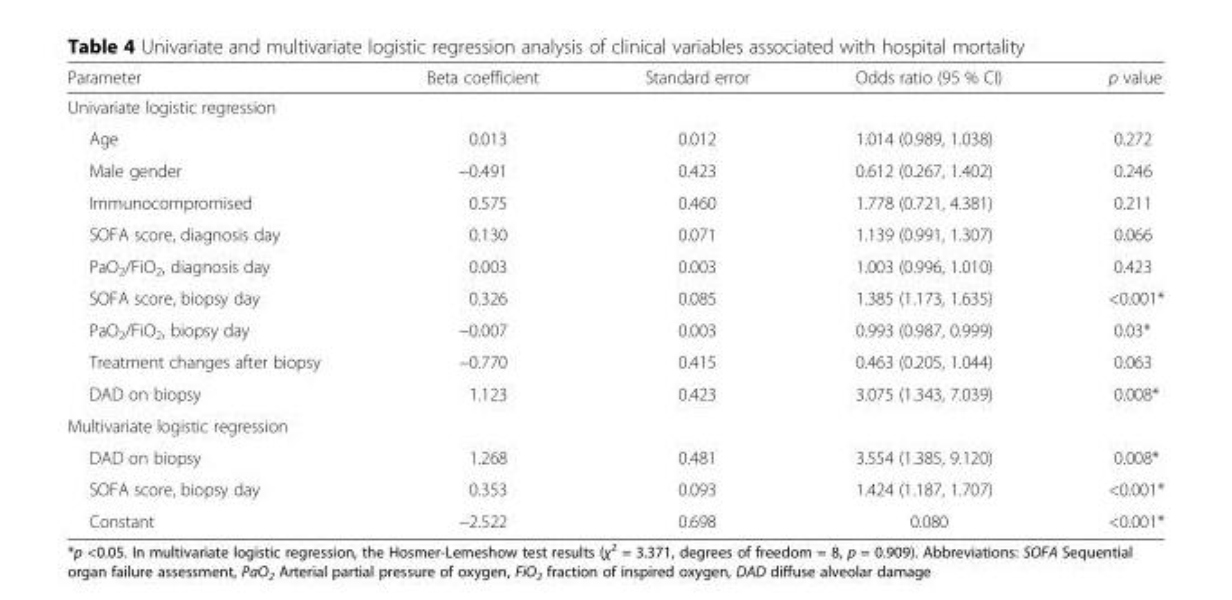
<table><thead><tr><td>Parameter</td><td>Beta coefficient</td><td>Standard error</td><td>Odds ratio (95 % CI)</td><td>p value</td></tr></thead><tbody><tr><td colspan="5">Univariate logistic regression</td></tr><tr><td>Age</td><td>0.013</td><td>0.012</td><td>1.014 (0.989, 1.038)</td><td>0.272</td></tr><tr><td>Male gender</td><td>−0.491</td><td>0.423</td><td>0.612 (0.267, 1.402)</td><td>0.246</td></tr><tr><td>Immunocompromised</td><td>0.575</td><td>0.460</td><td>1.778 (0.721, 4.381)</td><td>0.211</td></tr><tr><td>SOFA score, diagnosis day</td><td>0.130</td><td>0.071</td><td>1.139 (0.991, 1.307)</td><td>0.066</td></tr><tr><td>PaO<sub>2</sub>/FiO<sub>2</sub>, diagnosis day</td><td>0.003</td><td>0.003</td><td>1.003 (0.996, 1.010)</td><td>0.423</td></tr><tr><td>SOFA score, biopsy day</td><td>0.326</td><td>0.085</td><td>1.385 (1.173, 1.635)</td><td>&lt;0.001*</td></tr><tr><td>PaO<sub>2</sub>/FiO<sub>2</sub>, biopsy day</td><td>−0.007</td><td>0.003</td><td>0.993 (0.987, 0.999)</td><td>0.03*</td></tr><tr><td>Treatment changes after biopsy</td><td>−0.770</td><td>0.415</td><td>0.463 (0.205, 1.044)</td><td>0.063</td></tr><tr><td>DAD on biopsy</td><td>1.123</td><td>0.423</td><td>3.075 (1.343, 7.039)</td><td>0.008*</td></tr><tr><td colspan="5">Multivariate logistic regression</td></tr><tr><td>DAD on biopsy</td><td>1.268</td><td>0.481</td><td>3.554 (1.385, 9.120)</td><td>0.008*</td></tr><tr><td>SOFA score, biopsy day</td><td>0.353</td><td>0.093</td><td>1.424 (1.187, 1.707)</td><td>&lt;0.001*</td></tr><tr><td>Constant</td><td>−2.522</td><td>0.698</td><td>0.080</td><td>&lt;0.001*</td></tr></tbody></table>